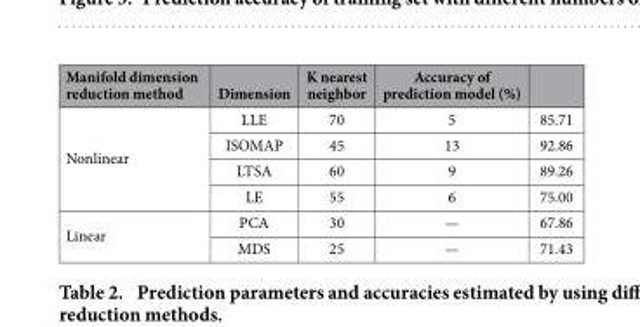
<table><thead><tr><td>Manifold dimension reduction method</td><td>Dimension</td><td>K nearest neighbor</td><td>Accuracy of prediction model (%)</td><td></td></tr></thead><tbody><tr><td rowspan="4">Nonlinear</td><td>LLE</td><td>70</td><td>5</td><td>85.71</td></tr><tr><td>ISOMAP</td><td>45</td><td>13</td><td>92.86</td></tr><tr><td>LTSA</td><td>60</td><td>9</td><td>89.26</td></tr><tr><td>LE</td><td>55</td><td>6</td><td>75.00</td></tr><tr><td rowspan="2">Linear</td><td>PCA</td><td>30</td><td>—</td><td>67.86</td></tr><tr><td>MDS</td><td>25</td><td>—</td><td>71.43</td></tr></tbody></table>